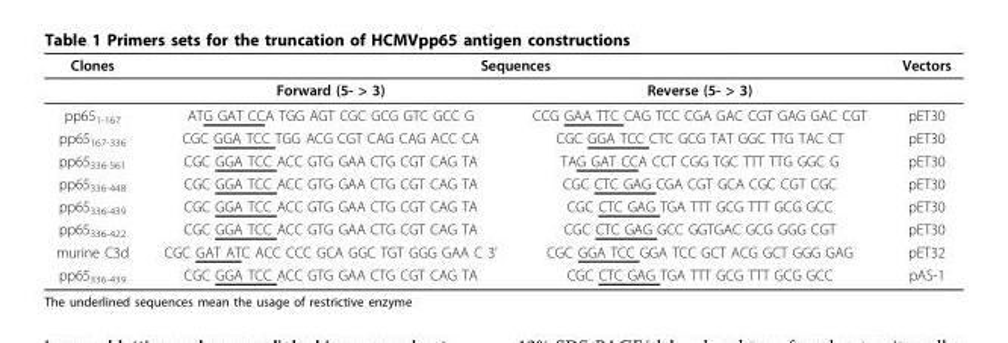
<table><thead><tr><td rowspan="2">Clones</td><td colspan="2">Sequences</td><td rowspan="2">Vectors</td></tr><tr><td>Forward (5- &gt; 3)</td><td>Reverse (5- &gt; 3)</td></tr></thead><tbody><tr><td>pp65<sub>1-167</sub></td><td>ATG GAT CCA TGG AGT CGC GCG GTC GCC G</td><td>CCG GAA TTC CAG TCC CGA GAC CGT GAG GAC CGT</td><td>pET30</td></tr><tr><td>pp65<sub>167-336</sub></td><td>CGC GGA TCC TGG ACG CGT CAG CAG ACC CA</td><td>CGC GGA TCC CTC GCG TAT GGC TTG TAC CT</td><td>pET30</td></tr><tr><td>pp65<sub>336-561</sub></td><td>CGC GGA TCC ACC GTG GAA CTG CGT CAG TA</td><td>TAG GAT CCA CCT CGG TGC TTT TTG GGC G</td><td>pET30</td></tr><tr><td>pp65<sub>336-448</sub></td><td>CGC GGA TCC ACC GTG GAA CTG CGT CAG TA</td><td>CGC CTC GAG CGA CGT GCA CGC CGT CGC</td><td>pET30</td></tr><tr><td>pp65<sub>336-439</sub></td><td>CGC GGA TCC ACC GTG GAA CTG CGT CAG TA</td><td>CGC CTC GAG TGA TTT GCG TTT GCG GCC</td><td>pET30</td></tr><tr><td>pp65<sub>336-422</sub></td><td>CGC GGA TCC ACC GTG GAA CTG CGT CAG TA</td><td>CGC CTC GAG GCC GGTGAC GCG GGG CGT</td><td>pET30</td></tr><tr><td>murine C3d</td><td>CGC GAT ATC ACC CCC GCA GGC TGT GGG GAA C 3’</td><td>CGC GGA TCC GGA TCC GCT ACG GCT GGG GAG</td><td>pET32</td></tr><tr><td>pp65<sub>336-439</sub></td><td>CGC GGA TCC ACC GTG GAA CTG CGT CAG TA</td><td>CGC CTC GAG TGA TTT GCG TTT GCG GCC</td><td>pAS-1</td></tr></tbody></table>